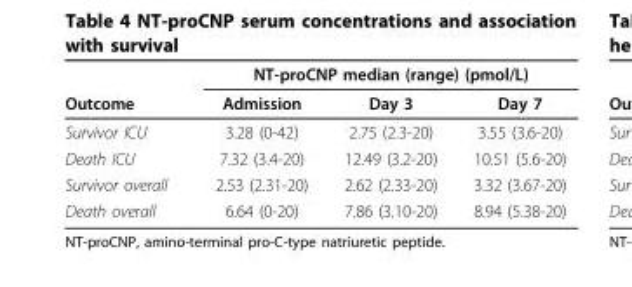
<table><thead><tr><td rowspan="2">Outcome</td><td colspan="3">NT-proCNP median (range) (pmol/L)</td></tr><tr><td>Admission</td><td>Day 3</td><td>Day 7</td></tr></thead><tbody><tr><td>Survivor ICU</td><td>3.28 (0-42)</td><td>2.75 (2.3-20)</td><td>3.55 (3.6-20)</td></tr><tr><td>Death ICU</td><td>7.32 (3.4-20)</td><td>12.49 (3.2-20)</td><td>10.51 (5.6-20)</td></tr><tr><td>Survivor overall</td><td>2.53 (2.31-20)</td><td>2.62 (2.33-20)</td><td>3.32 (3.67-20)</td></tr><tr><td>Death overall</td><td>6.64 (0-20)</td><td>7.86 (3.10-20)</td><td>8.94 (5.38-20)</td></tr></tbody></table>